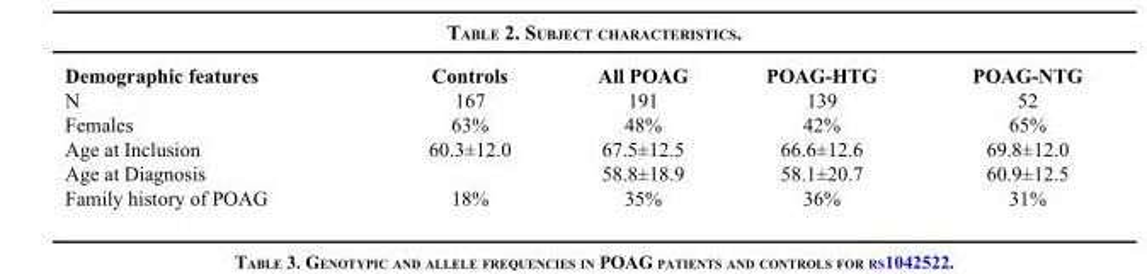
<table><thead><tr><td>Demographic features</td><td>Controls</td><td>All POAG</td><td>POAG-HTG</td><td>POAG-NTG</td></tr></thead><tbody><tr><td>N</td><td>167</td><td>191</td><td>139</td><td>52</td></tr><tr><td>Females</td><td>63%</td><td>48%</td><td>42%</td><td>65%</td></tr><tr><td>Age at Inclusion</td><td>60.3±12.0</td><td>67.5±12.5</td><td>66.6±12.6</td><td>69.8±12.0</td></tr><tr><td>Age at Diagnosis</td><td></td><td>58.8±18.9</td><td>58.1±20.7</td><td>60.9±12.5</td></tr><tr><td>Family history of POAG</td><td>18%</td><td>35%</td><td>36%</td><td>31%</td></tr></tbody></table>